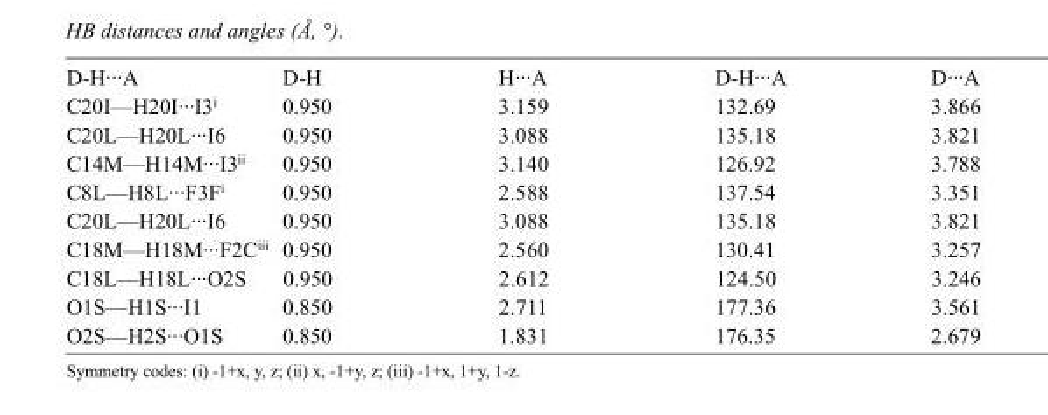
<table><tbody><tr><td>D-H···A</td><td>D-H</td><td>H···A</td><td>D-H···A</td><td>D···A</td></tr><tr><td>C20I—H20I···I3<sup>i</sup></td><td>0.950</td><td>3.159</td><td>132.69</td><td>3.866</td></tr><tr><td>C20L—H20L···I6</td><td>0.950</td><td>3.088</td><td>135.18</td><td>3.821</td></tr><tr><td>C14M—H14M···I3<sup>ii</sup></td><td>0.950</td><td>3.140</td><td>126.92</td><td>3.788</td></tr><tr><td>C8L—H8L···F3F<sup>i</sup></td><td>0.950</td><td>2.588</td><td>137.54</td><td>3.351</td></tr><tr><td>C20L—H20L···I6</td><td>0.950</td><td>3.088</td><td>135.18</td><td>3.821</td></tr><tr><td>C18M—H18M···F2C<sup>iii</sup></td><td>0.950</td><td>2.560</td><td>130.41</td><td>3.257</td></tr><tr><td>C18L—H18L···O2S</td><td>0.950</td><td>2.612</td><td>124.50</td><td>3.246</td></tr><tr><td>O1S—H1S···I1</td><td>0.850</td><td>2.711</td><td>177.36</td><td>3.561</td></tr><tr><td>O2S—H2S···O1S</td><td>0.850</td><td>1.831</td><td>176.35</td><td>2.679</td></tr></tbody></table>